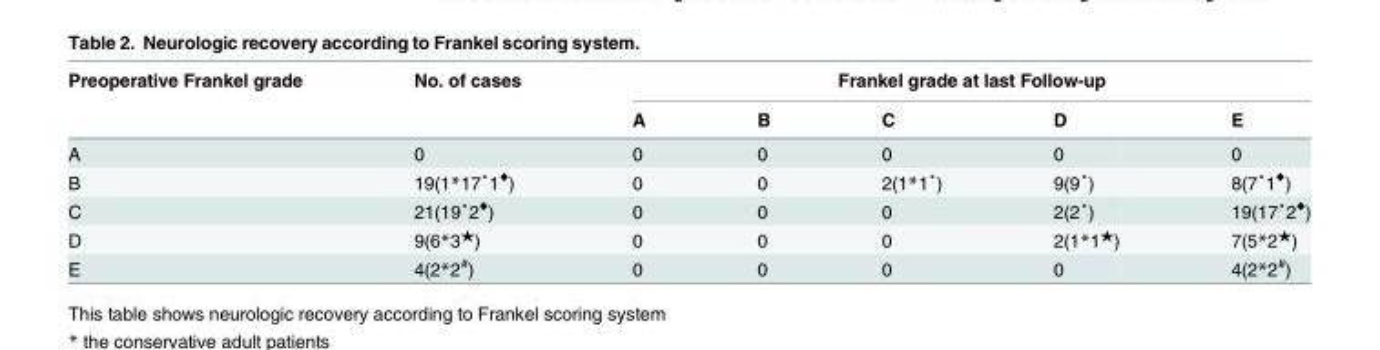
<table><thead><tr><td rowspan="2">Preoperative Frankel grade</td><td rowspan="2">No. of cases</td><td colspan="5">Frankel grade at last Follow-up</td></tr><tr><td>A</td><td>B</td><td>C</td><td>D</td><td>E</td></tr></thead><tbody><tr><td>A</td><td>0</td><td>0</td><td>0</td><td>0</td><td>0</td><td>0</td></tr><tr><td>B</td><td>19(1*17<sup>▪</sup>1<sup>♦</sup>)</td><td>0</td><td>0</td><td>2(1*1<sup>▪</sup>)</td><td>9(9<sup>▪</sup>)</td><td>8(7<sup>▪</sup>1<sup>♦</sup>)</td></tr><tr><td>C</td><td>21(19<sup>▪</sup>2<sup>♦</sup>)</td><td>0</td><td>0</td><td>0</td><td>2(2<sup>▪</sup>)</td><td>19(17<sup>▪</sup>2<sup>♦</sup>)</td></tr><tr><td>D</td><td>9(6*3<sup>★</sup>)</td><td>0</td><td>0</td><td>0</td><td>2(1*1<sup>★</sup>)</td><td>7(5*2<sup>★</sup>)</td></tr><tr><td>E</td><td>4(2*2<sup>#</sup>)</td><td>0</td><td>0</td><td>0</td><td>0</td><td>4(2*2<sup>#</sup>)</td></tr></tbody></table>